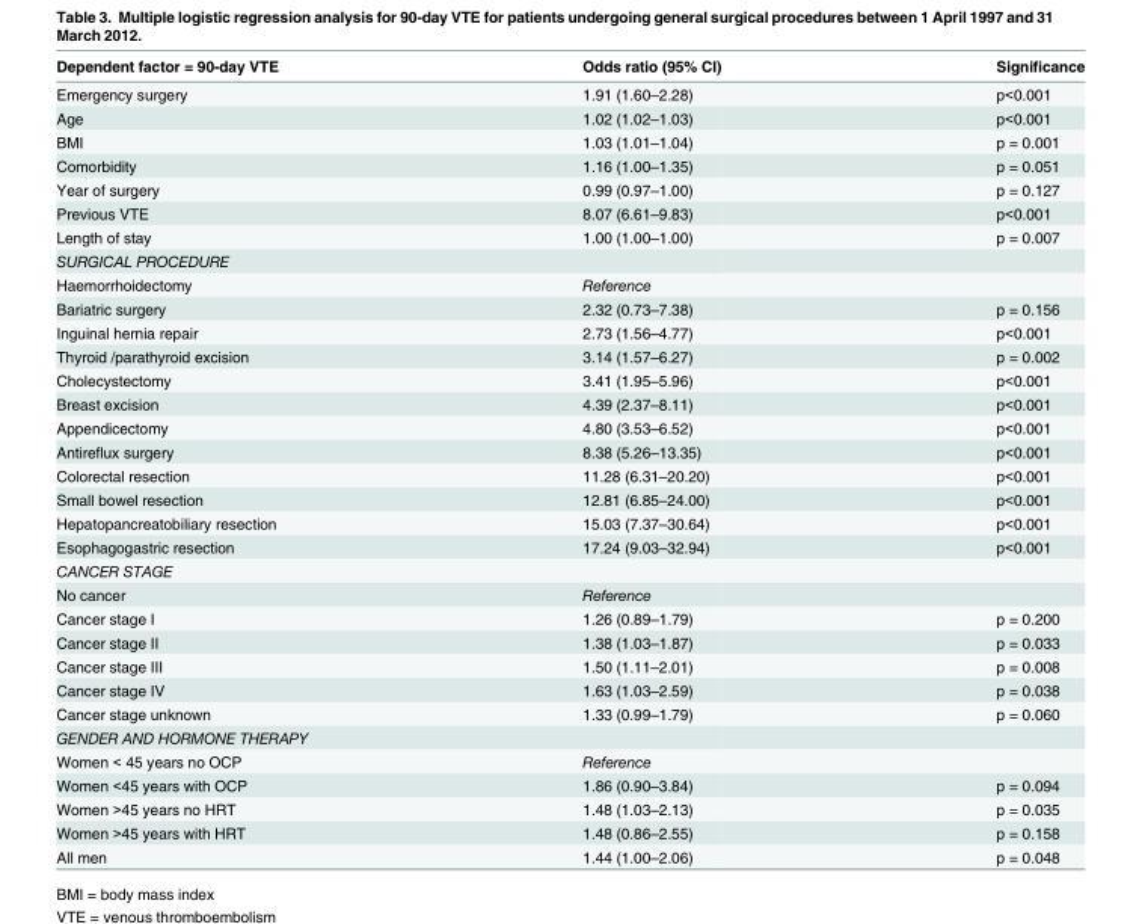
<table><thead><tr><td>Dependent factor = 90-day VTE</td><td>Odds ratio (95% CI)</td><td>Significance</td></tr></thead><tbody><tr><td>Emergency surgery</td><td>1.91 (1.60–2.28)</td><td>p&lt;0.001</td></tr><tr><td>Age</td><td>1.02 (1.02–1.03)</td><td>p&lt;0.001</td></tr><tr><td>BMI</td><td>1.03 (1.01–1.04)</td><td>p = 0.001</td></tr><tr><td>Comorbidity</td><td>1.16 (1.00–1.35)</td><td>p = 0.051</td></tr><tr><td>Year of surgery</td><td>0.99 (0.97–1.00)</td><td>p = 0.127</td></tr><tr><td>Previous VTE</td><td>8.07 (6.61–9.83)</td><td>p&lt;0.001</td></tr><tr><td>Length of stay</td><td>1.00 (1.00–1.00)</td><td>p = 0.007</td></tr><tr><td colspan="3">SURGICAL PROCEDURE</td></tr><tr><td>Haemorrhoidectomy</td><td>Reference</td><td></td></tr><tr><td>Bariatric surgery</td><td>2.32 (0.73–7.38)</td><td>p = 0.156</td></tr><tr><td>Inguinal hernia repair</td><td>2.73 (1.56–4.77)</td><td>p&lt;0.001</td></tr><tr><td>Thyroid /parathyroid excision</td><td>3.14 (1.57–6.27)</td><td>p = 0.002</td></tr><tr><td>Cholecystectomy</td><td>3.41 (1.95–5.96)</td><td>p&lt;0.001</td></tr><tr><td>Breast excision</td><td>4.39 (2.37–8.11)</td><td>p&lt;0.001</td></tr><tr><td>Appendicectomy</td><td>4.80 (3.53–6.52)</td><td>p&lt;0.001</td></tr><tr><td>Antireflux surgery</td><td>8.38 (5.26–13.35)</td><td>p&lt;0.001</td></tr><tr><td>Colorectal resection</td><td>11.28 (6.31–20.20)</td><td>p&lt;0.001</td></tr><tr><td>Small bowel resection</td><td>12.81 (6.85–24.00)</td><td>p&lt;0.001</td></tr><tr><td>Hepatopancreatobiliary resection</td><td>15.03 (7.37–30.64)</td><td>p&lt;0.001</td></tr><tr><td>Esophagogastric resection</td><td>17.24 (9.03–32.94)</td><td>p&lt;0.001</td></tr><tr><td colspan="3">CANCER STAGE</td></tr><tr><td>No cancer</td><td>Reference</td><td></td></tr><tr><td>Cancer stage I</td><td>1.26 (0.89–1.79)</td><td>p = 0.200</td></tr><tr><td>Cancer stage II</td><td>1.38 (1.03–1.87)</td><td>p = 0.033</td></tr><tr><td>Cancer stage III</td><td>1.50 (1.11–2.01)</td><td>p = 0.008</td></tr><tr><td>Cancer stage IV</td><td>1.63 (1.03–2.59)</td><td>p = 0.038</td></tr><tr><td>Cancer stage unknown</td><td>1.33 (0.99–1.79)</td><td>p = 0.060</td></tr><tr><td colspan="3">GENDER AND HORMONE THERAPY</td></tr><tr><td>Women &lt; 45 years no OCP</td><td>Reference</td><td></td></tr><tr><td>Women &lt;45 years with OCP</td><td>1.86 (0.90–3.84)</td><td>p = 0.094</td></tr><tr><td>Women &gt;45 years no HRT</td><td>1.48 (1.03–2.13)</td><td>p = 0.035</td></tr><tr><td>Women &gt;45 years with HRT</td><td>1.48 (0.86–2.55)</td><td>p = 0.158</td></tr><tr><td>All men</td><td>1.44 (1.00–2.06)</td><td>p = 0.048</td></tr></tbody></table>